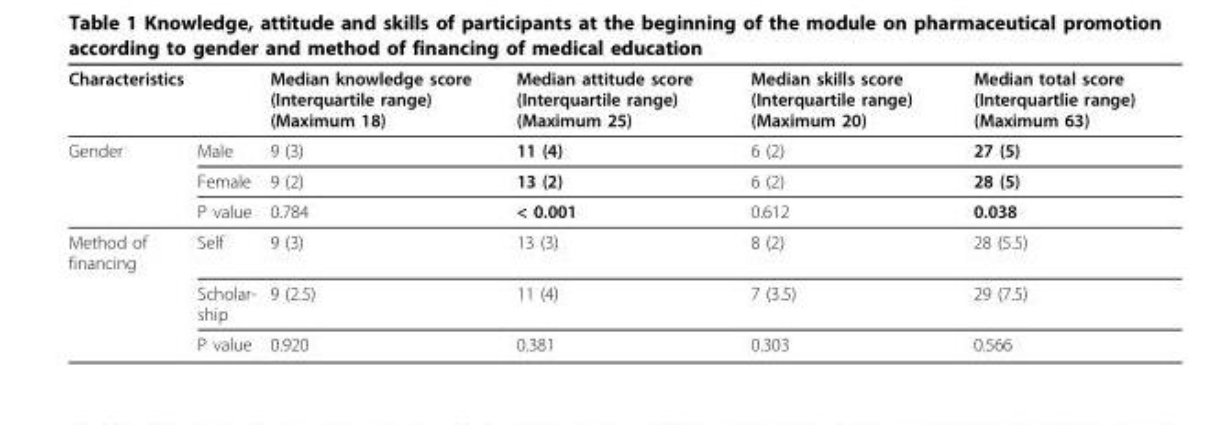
<table><thead><tr><td>Characteristics</td><td></td><td>Median knowledge score (Interquartile range) (Maximum 18)</td><td>Median attitude score (Interquartile range) (Maximum 25)</td><td>Median skills score (Interquartile range) (Maximum 20)</td><td>Median total score (Interquartlie range) (Maximum 63)</td></tr></thead><tbody><tr><td rowspan="3">Gender</td><td>Male</td><td>9 (3)</td><td>11 (4)</td><td>6 (2)</td><td>27 (5)</td></tr><tr><td>Female</td><td>9 (2)</td><td>13 (2)</td><td>6 (2)</td><td>28 (5)</td></tr><tr><td>P value</td><td>0.784</td><td>&lt; 0.001</td><td>0.612</td><td>0.038</td></tr><tr><td rowspan="3">Method of financing</td><td>Self</td><td>9 (3)</td><td>13 (3)</td><td>8 (2)</td><td>28 (5.5)</td></tr><tr><td>Scholar- ship</td><td>9 (2.5)</td><td>11 (4)</td><td>7 (3.5)</td><td>29 (7.5)</td></tr><tr><td>P value</td><td>0.920</td><td>0.381</td><td>0.303</td><td>0.566</td></tr></tbody></table>